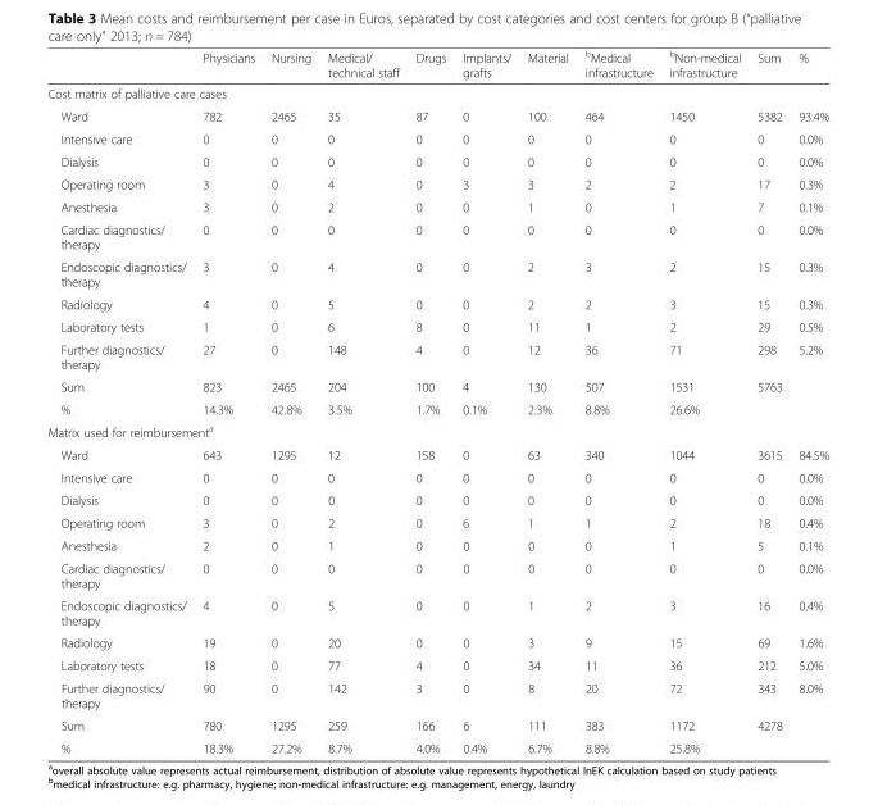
<table><thead><tr><td></td><td>Physicians</td><td>Nursing</td><td>Medical/ technical staff</td><td>Drugs</td><td>Implants/ grafts</td><td>Material</td><td><sup>b</sup>Medical infrastructure</td><td><sup>b</sup>Non-medical infrastructure</td><td>Sum</td><td>%</td></tr></thead><tbody><tr><td colspan="11">Cost matrix of palliative care cases</td></tr><tr><td>Ward</td><td>782</td><td>2465</td><td>35</td><td>87</td><td>0</td><td>100</td><td>464</td><td>1450</td><td>5382</td><td>93.4%</td></tr><tr><td>Intensive care</td><td>0</td><td>0</td><td>0</td><td>0</td><td>0</td><td>0</td><td>0</td><td>0</td><td>0</td><td>0.0%</td></tr><tr><td>Dialysis</td><td>0</td><td>0</td><td>0</td><td>0</td><td>0</td><td>0</td><td>0</td><td>0</td><td>0</td><td>0.0%</td></tr><tr><td>Operating room</td><td>3</td><td>0</td><td>4</td><td>0</td><td>3</td><td>3</td><td>2</td><td>2</td><td>17</td><td>0.3%</td></tr><tr><td>Anesthesia</td><td>3</td><td>0</td><td>2</td><td>0</td><td>0</td><td>1</td><td>0</td><td>1</td><td>7</td><td>0.1%</td></tr><tr><td>Cardiac diagnostics/ therapy</td><td>0</td><td>0</td><td>0</td><td>0</td><td>0</td><td>0</td><td>0</td><td>0</td><td>0</td><td>0.0%</td></tr><tr><td>Endoscopic diagnostics/ therapy</td><td>3</td><td>0</td><td>4</td><td>0</td><td>0</td><td>2</td><td>3</td><td>2</td><td>15</td><td>0.3%</td></tr><tr><td>Radiology</td><td>4</td><td>0</td><td>5</td><td>0</td><td>0</td><td>2</td><td>2</td><td>3</td><td>15</td><td>0.3%</td></tr><tr><td>Laboratory tests</td><td>1</td><td>0</td><td>6</td><td>8</td><td>0</td><td>11</td><td>1</td><td>2</td><td>29</td><td>0.5%</td></tr><tr><td>Further diagnostics/ therapy</td><td>27</td><td>0</td><td>148</td><td>4</td><td>0</td><td>12</td><td>36</td><td>71</td><td>298</td><td>5.2%</td></tr><tr><td>Sum</td><td>823</td><td>2465</td><td>204</td><td>100</td><td>4</td><td>130</td><td>507</td><td>1531</td><td>5763</td><td></td></tr><tr><td>%</td><td>14.3%</td><td>42.8%</td><td>3.5%</td><td>1.7%</td><td>0.1%</td><td>2.3%</td><td>8.8%</td><td>26.6%</td><td></td><td></td></tr><tr><td colspan="11">Matrix used for reimbursement<sup>a</sup></td></tr><tr><td>Ward</td><td>643</td><td>1295</td><td>12</td><td>158</td><td>0</td><td>63</td><td>340</td><td>1044</td><td>3615</td><td>84.5%</td></tr><tr><td>Intensive care</td><td>0</td><td>0</td><td>0</td><td>0</td><td>0</td><td>0</td><td>0</td><td>0</td><td>0</td><td>0.0%</td></tr><tr><td>Dialysis</td><td>0</td><td>0</td><td>0</td><td>0</td><td>0</td><td>0</td><td>0</td><td>0</td><td>0</td><td>0.0%</td></tr><tr><td>Operating room</td><td>3</td><td>0</td><td>2</td><td>0</td><td>6</td><td>1</td><td>1</td><td>2</td><td>18</td><td>0.4%</td></tr><tr><td>Anesthesia</td><td>2</td><td>0</td><td>1</td><td>0</td><td>0</td><td>0</td><td>0</td><td>1</td><td>5</td><td>0.1%</td></tr><tr><td>Cardiac diagnostics/ therapy</td><td>0</td><td>0</td><td>0</td><td>0</td><td>0</td><td>0</td><td>0</td><td>0</td><td>0</td><td>0.0%</td></tr><tr><td>Endoscopic diagnostics/ therapy</td><td>4</td><td>0</td><td>5</td><td>0</td><td>0</td><td>1</td><td>2</td><td>3</td><td>16</td><td>0.4%</td></tr><tr><td>Radiology</td><td>19</td><td>0</td><td>20</td><td>0</td><td>0</td><td>3</td><td>9</td><td>15</td><td>69</td><td>1.6%</td></tr><tr><td>Laboratory tests</td><td>18</td><td>0</td><td>77</td><td>4</td><td>0</td><td>34</td><td>11</td><td>36</td><td>212</td><td>5.0%</td></tr><tr><td>Further diagnostics/ therapy</td><td>90</td><td>0</td><td>142</td><td>3</td><td>0</td><td>8</td><td>20</td><td>72</td><td>343</td><td>8.0%</td></tr><tr><td>Sum</td><td>780</td><td>1295</td><td>259</td><td>166</td><td>6</td><td>111</td><td>383</td><td>1172</td><td>4278</td><td></td></tr><tr><td>%</td><td>18.3%</td><td>27.2%</td><td>8.7%</td><td>4.0%</td><td>0.4%</td><td>6.7%</td><td>8.8%</td><td>25.8%</td><td></td><td></td></tr></tbody></table>